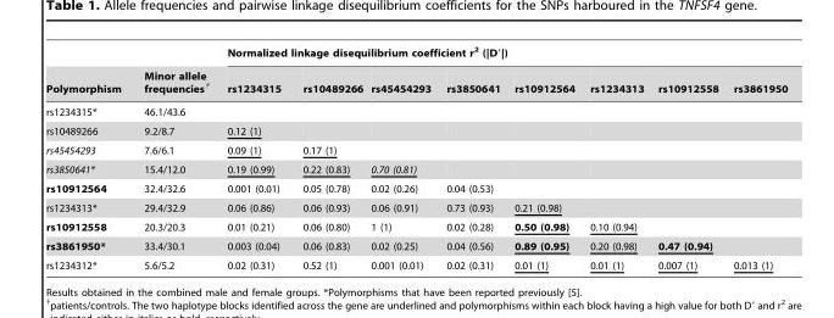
<table><thead><tr><td rowspan="2">Polymorphism</td><td rowspan="2">Minor allele frequencies†</td><td colspan="8">Normalized linkage disequilibrium coefficient r<sup>2</sup> (|D′|)</td></tr><tr><td>rs1234315</td><td>rs10489266</td><td>rs45454293</td><td>rs3850641</td><td>rs10912564</td><td>rs1234313</td><td>rs10912558</td><td>rs3861950</td></tr></thead><tbody><tr><td>rs1234315*</td><td>46.1/43.6</td><td></td><td></td><td></td><td></td><td></td><td></td><td></td><td></td></tr><tr><td>rs10489266</td><td>9.2/8.7</td><td>0.12 (1)</td><td></td><td></td><td></td><td></td><td></td><td></td><td></td></tr><tr><td>rs45454293</td><td>7.6/6.1</td><td>0.09 (1)</td><td>0.17 (1)</td><td></td><td></td><td></td><td></td><td></td><td></td></tr><tr><td>rs3850641*</td><td>15.4/12.0</td><td>0.19 (0.99)</td><td>0.22 (0.83)</td><td>0.70 (0.81)</td><td></td><td></td><td></td><td></td><td></td></tr><tr><td>rs10912564</td><td>32.4/32.6</td><td>0.001 (0.01)</td><td>0.05 (0.78)</td><td>0.02 (0.26)</td><td>0.04 (0.53)</td><td></td><td></td><td></td><td></td></tr><tr><td>rs1234313*</td><td>29.4/32.9</td><td>0.06 (0.86)</td><td>0.06 (0.93)</td><td>0.06 (0.91)</td><td>0.73 (0.93)</td><td>0.21 (0.98)</td><td></td><td></td><td></td></tr><tr><td>rs10912558</td><td>20.3/20.3</td><td>0.01 (0.21)</td><td>0.06 (0.80)</td><td>1 (1)</td><td>0.02 (0.28)</td><td>0.50 (0.98)</td><td>0.10 (0.94)</td><td></td><td></td></tr><tr><td>rs3861950*</td><td>33.4/30.1</td><td>0.003 (0.04)</td><td>0.06 (0.83)</td><td>0.02 (0.25)</td><td>0.04 (0.56)</td><td>0.89 (0.95)</td><td>0.20 (0.98)</td><td>0.47 (0.94)</td><td></td></tr><tr><td>rs1234312*</td><td>5.6/5.2</td><td>0.02 (0.31)</td><td>0.52 (1)</td><td>0.001 (0.01)</td><td>0.02 (0.31)</td><td>0.01 (1)</td><td>0.01 (1)</td><td>0.007 (1)</td><td>0.013 (1)</td></tr></tbody></table>